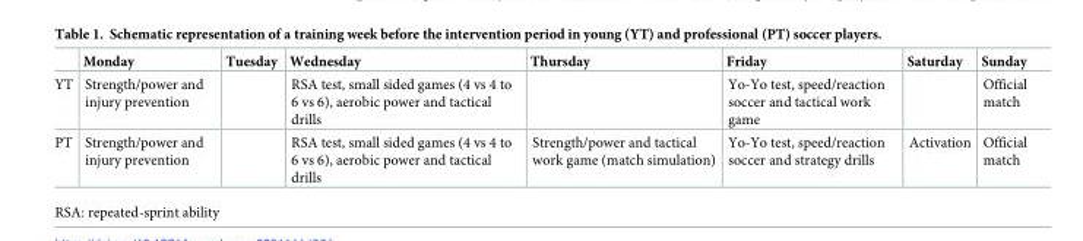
<table><thead><tr><td></td><td>Monday</td><td>Tuesday</td><td>Wednesday</td><td>Thursday</td><td>Friday</td><td>Saturday</td><td>Sunday</td></tr></thead><tbody><tr><td>YT</td><td>Strength/power and injury prevention</td><td></td><td>RSA test, small sided games (4 vs 4 to 6 vs 6), aerobic power and tactical drills</td><td></td><td>Yo-Yo test, speed/reaction soccer and tactical work game</td><td></td><td>Official match</td></tr><tr><td>PT</td><td>Strength/power and injury prevention</td><td></td><td>RSA test, small sided games (4 vs 4 to 6 vs 6), aerobic power and tactical drills</td><td>Strength/power and tactical work game (match simulation)</td><td>Yo-Yo test, speed/reaction soccer and strategy drills</td><td>Activation</td><td>Official match</td></tr></tbody></table>